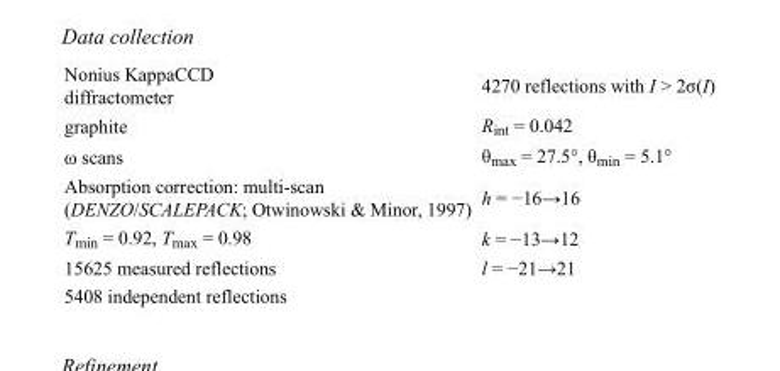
<table><tbody><tr><td>Nonius KappaCCD diffractometer</td><td>4270 reflections with I &gt; 2σ(I)</td></tr><tr><td>graphite</td><td>R<sub>int</sub> = 0.042</td></tr><tr><td>ω scans</td><td>θ<sub>max</sub> = 27.5°, θ<sub>min</sub> = 5.1°</td></tr><tr><td>Absorption correction: multi-scan (DENZO/SCALEPACK; Otwinowski &amp; Minor, 1997)</td><td>h = −16→16</td></tr><tr><td>T<sub>min</sub> = 0.92, T<sub>max</sub> = 0.98</td><td>k = −13→12</td></tr><tr><td>15625 measured reflections</td><td>l = −21→21</td></tr><tr><td>5408 independent reflections</td><td></td></tr></tbody></table>